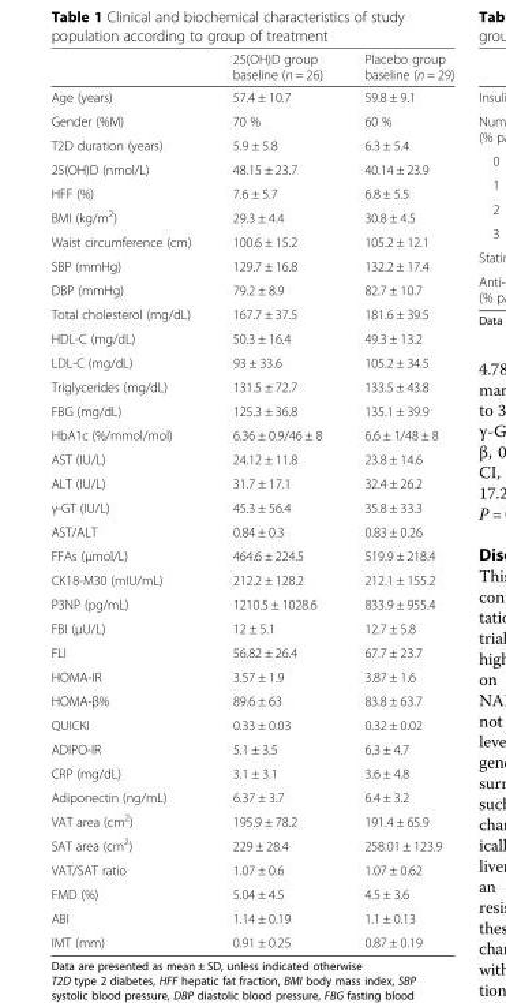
<table><thead><tr><td></td><td>25(OH)D group baseline (n = 26)</td><td>Placebo group baseline (n = 29)</td></tr></thead><tbody><tr><td>Age (years)</td><td>57.4 ± 10.7</td><td>59.8 ± 9.1</td></tr><tr><td>Gender (%M)</td><td>70 %</td><td>60 %</td></tr><tr><td>T2D duration (years)</td><td>5.9 ± 5.8</td><td>6.3 ± 5.4</td></tr><tr><td>25(OH)D (nmol/L)</td><td>48.15 ± 23.7</td><td>40.14 ± 23.9</td></tr><tr><td>HFF (%)</td><td>7.6 ± 5.7</td><td>6.8 ± 5.5</td></tr><tr><td>BMI (kg/m<sup>2</sup>)</td><td>29.3 ± 4.4</td><td>30.8 ± 4.5</td></tr><tr><td>Waist circumference (cm)</td><td>100.6 ± 15.2</td><td>105.2 ± 12.1</td></tr><tr><td>SBP (mmHg)</td><td>129.7 ± 16.8</td><td>132.2 ± 17.4</td></tr><tr><td>DBP (mmHg)</td><td>79.2 ± 8.9</td><td>82.7 ± 10.7</td></tr><tr><td>Total cholesterol (mg/dL)</td><td>167.7 ± 37.5</td><td>181.6 ± 39.5</td></tr><tr><td>HDL-C (mg/dL)</td><td>50.3 ± 16.4</td><td>49.3 ± 13.2</td></tr><tr><td>LDL-C (mg/dL)</td><td>93 ± 33.6</td><td>105.2 ± 34.5</td></tr><tr><td>Triglycerides (mg/dL)</td><td>131.5 ± 72.7</td><td>133.5 ± 43.8</td></tr><tr><td>FBG (mg/dL)</td><td>125.3 ± 36.8</td><td>135.1 ± 39.9</td></tr><tr><td>HbA1c (%/mmol/mol)</td><td>6.36 ± 0.9/46 ± 8</td><td>6.6 ± 1/48 ± 8</td></tr><tr><td>AST (IU/L)</td><td>24.12 ± 11.8</td><td>23.8 ± 14.6</td></tr><tr><td>ALT (IU/L)</td><td>31.7 ± 17.1</td><td>32.4 ± 26.2</td></tr><tr><td>γ-GT (IU/L)</td><td>45.3 ± 56.4</td><td>35.8 ± 33.3</td></tr><tr><td>AST/ALT</td><td>0.84 ± 0.3</td><td>0.83 ± 0.26</td></tr><tr><td>FFAs (μmol/L)</td><td>464.6 ± 224.5</td><td>519.9 ± 218.4</td></tr><tr><td>CK18-M30 (mIU/mL)</td><td>212.2 ± 128.2</td><td>212.1 ± 155.2</td></tr><tr><td>P3NP (pg/mL)</td><td>1210.5 ± 1028.6</td><td>833.9 ± 955.4</td></tr><tr><td>FBI (μU/L)</td><td>12 ± 5.1</td><td>12.7 ± 5.8</td></tr><tr><td>FLI</td><td>56.82 ± 26.4</td><td>67.7 ± 23.7</td></tr><tr><td>HOMA-IR</td><td>3.57 ± 1.9</td><td>3.87 ± 1.6</td></tr><tr><td>HOMA-β%</td><td>89.6 ± 63</td><td>83.8 ± 63.7</td></tr><tr><td>QUICKI</td><td>0.33 ± 0.03</td><td>0.32 ± 0.02</td></tr><tr><td>ADIPO-IR</td><td>5.1 ± 3.5</td><td>6.3 ± 4.7</td></tr><tr><td>CRP (mg/dL)</td><td>3.1 ± 3.1</td><td>3.6 ± 4.8</td></tr><tr><td>Adiponectin (ng/mL)</td><td>6.37 ± 3.7</td><td>6.4 ± 3.2</td></tr><tr><td>VAT area (cm<sup>2</sup>)</td><td>195.9 ± 78.2</td><td>191.4 ± 65.9</td></tr><tr><td>SAT area (cm<sup>2</sup>)</td><td>229 ± 28.4</td><td>258.01 ± 123.9</td></tr><tr><td>VAT/SAT ratio</td><td>1.07 ± 0.6</td><td>1.07 ± 0.62</td></tr><tr><td>FMD (%)</td><td>5.04 ± 4.5</td><td>4.5 ± 3.6</td></tr><tr><td>ABI</td><td>1.14 ± 0.19</td><td>1.1 ± 0.13</td></tr><tr><td>IMT (mm)</td><td>0.91 ± 0.25</td><td>0.87 ± 0.19</td></tr></tbody></table>